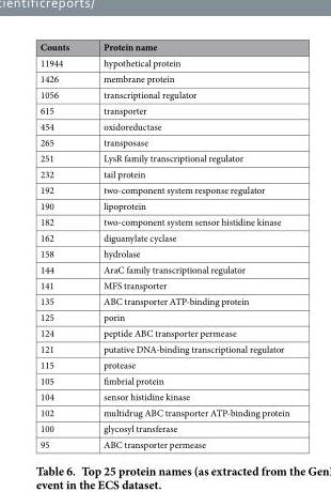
<table><thead><tr><td>Counts</td><td>Protein name</td></tr></thead><tbody><tr><td>11944</td><td>hypothetical protein</td></tr><tr><td>1426</td><td>membrane protein</td></tr><tr><td>1056</td><td>transcriptional regulator</td></tr><tr><td>615</td><td>transporter</td></tr><tr><td>454</td><td>oxidoreductase</td></tr><tr><td>265</td><td>transposase</td></tr><tr><td>251</td><td>LysR family transcriptional regulator</td></tr><tr><td>232</td><td>tail protein</td></tr><tr><td>192</td><td>two-component system response regulator</td></tr><tr><td>190</td><td>lipoprotein</td></tr><tr><td>182</td><td>two-component system sensor histidine kinase</td></tr><tr><td>162</td><td>diguanylate cyclase</td></tr><tr><td>158</td><td>hydrolase</td></tr><tr><td>144</td><td>AraC family transcriptional regulator</td></tr><tr><td>141</td><td>MFS transporter</td></tr><tr><td>135</td><td>ABC transporter ATP-binding protein</td></tr><tr><td>125</td><td>porin</td></tr><tr><td>124</td><td>peptide ABC transporter permease</td></tr><tr><td>121</td><td>putative DNA-binding transcriptional regulator</td></tr><tr><td>115</td><td>protease</td></tr><tr><td>105</td><td>fimbrial protein</td></tr><tr><td>104</td><td>sensor histidine kinase</td></tr><tr><td>102</td><td>multidrug ABC transporter ATP-binding protein</td></tr><tr><td>100</td><td>glycosyl transferase</td></tr><tr><td>95</td><td>ABC transporter permease</td></tr></tbody></table>